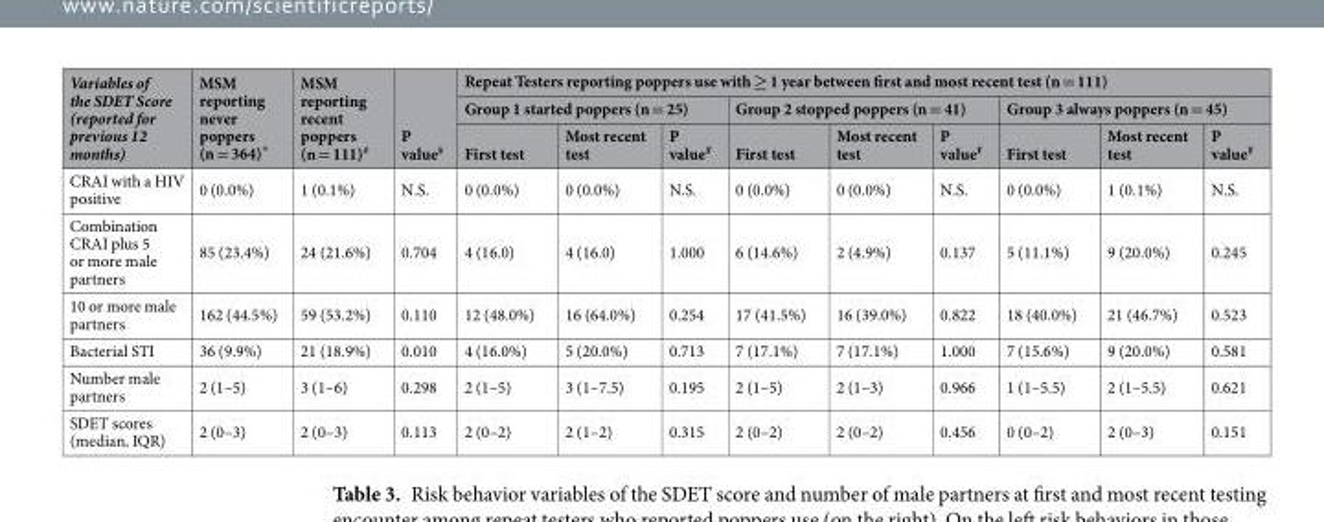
<table><thead><tr><td rowspan="3">Variables of the SDET Score (reported for previous 12 months)</td><td rowspan="3">MSM reporting never poppers (n = 364)*</td><td rowspan="3">MSM reporting recent poppers (n = 111)<sup>#</sup></td><td rowspan="3">P value<sup>§</sup></td><td colspan="9">Repeat Testers reporting poppers use with ≥ 1 year between first and most recent test (n = 111)</td></tr><tr><td colspan="3">Group 1 started poppers (n = 25)</td><td colspan="3">Group 2 stopped poppers (n = 41)</td><td colspan="3">Group 3 always poppers (n = 45)</td></tr><tr><td>First test</td><td>Most recent test</td><td>P value<sup>¥</sup></td><td>First test</td><td>Most recent test</td><td>P value<sup>¥</sup></td><td>First test</td><td>Most recent test</td><td>P value<sup>¥</sup></td></tr></thead><tbody><tr><td>CRAI with a HIV positive</td><td>0 (0.0%)</td><td>1 (0.1%)</td><td>N.S.</td><td>0 (0.0%)</td><td>0 (0.0%)</td><td>N.S.</td><td>0 (0.0%)</td><td>0 (0.0%)</td><td>N.S.</td><td>0 (0.0%)</td><td>1 (0.1%)</td><td>N.S.</td></tr><tr><td>Combination CRAI plus 5 or more male partners</td><td>85 (23.4%)</td><td>24 (21.6%)</td><td>0.704</td><td>4 (16.0)</td><td>4 (16.0)</td><td>1.000</td><td>6 (14.6%)</td><td>2 (4.9%)</td><td>0.137</td><td>5 (11.1%)</td><td>9 (20.0%)</td><td>0.245</td></tr><tr><td>10 or more male partners</td><td>162 (44.5%)</td><td>59 (53.2%)</td><td>0.110</td><td>12 (48.0%)</td><td>16 (64.0%)</td><td>0.254</td><td>17 (41.5%)</td><td>16 (39.0%)</td><td>0.822</td><td>18 (40.0%)</td><td>21 (46.7%)</td><td>0.523</td></tr><tr><td>Bacterial STI</td><td>36 (9.9%)</td><td>21 (18.9%)</td><td>0.010</td><td>4 (16.0%)</td><td>5 (20.0%)</td><td>0.713</td><td>7 (17.1%)</td><td>7 (17.1%)</td><td>1.000</td><td>7 (15.6%)</td><td>9 (20.0%)</td><td>0.581</td></tr><tr><td>Number male partners</td><td>2 (1–5)</td><td>3 (1–6)</td><td>0.298</td><td>2 (1–5)</td><td>3 (1–7.5)</td><td>0.195</td><td>2 (1–5)</td><td>2 (1–3)</td><td>0.966</td><td>1 (1–5.5)</td><td>2 (1–5.5)</td><td>0.621</td></tr><tr><td>SDET scores (median, IQR)</td><td>2 (0–3)</td><td>2 (0–3)</td><td>0.113</td><td>2 (0–2)</td><td>2 (1–2)</td><td>0.315</td><td>2 (0–2)</td><td>2 (0–2)</td><td>0.456</td><td>0 (0–2)</td><td>2 (0–3)</td><td>0.151</td></tr></tbody></table>